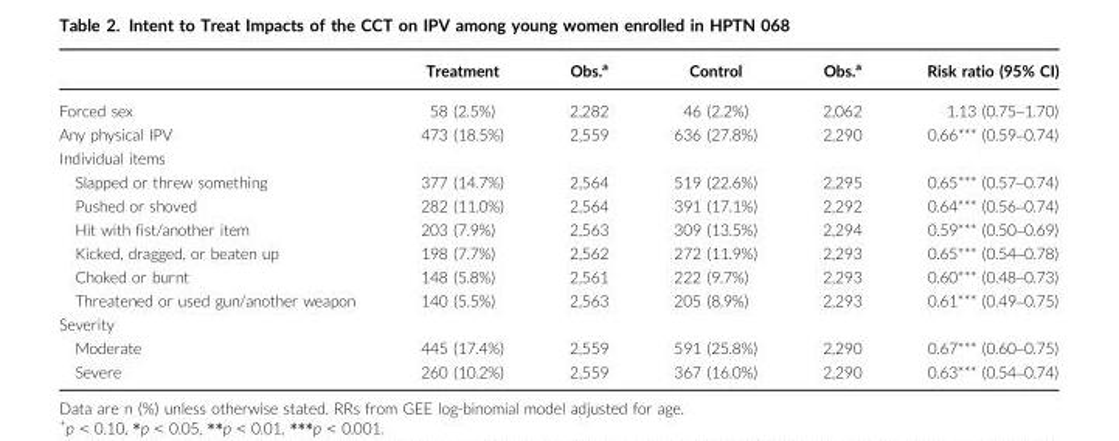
<table><thead><tr><td></td><td>Treatment</td><td>Obs.<sup>a</sup></td><td>Control</td><td>Obs.<sup>a</sup></td><td>Risk ratio (95% CI)</td></tr></thead><tbody><tr><td>Forced sex</td><td>58 (2.5%)</td><td>2,282</td><td>46 (2.2%)</td><td>2,062</td><td>1.13 (0.75–1.70)</td></tr><tr><td>Any physical IPV</td><td>473 (18.5%)</td><td>2,559</td><td>636 (27.8%)</td><td>2,290</td><td>0.66*** (0.59–0.74)</td></tr><tr><td colspan="6">Individual items</td></tr><tr><td>Slapped or threw something</td><td>377 (14.7%)</td><td>2,564</td><td>519 (22.6%)</td><td>2,295</td><td>0.65*** (0.57–0.74)</td></tr><tr><td>Pushed or shoved</td><td>282 (11.0%)</td><td>2,564</td><td>391 (17.1%)</td><td>2,292</td><td>0.64*** (0.56–0.74)</td></tr><tr><td>Hit with fist/another item</td><td>203 (7.9%)</td><td>2,563</td><td>309 (13.5%)</td><td>2,294</td><td>0.59*** (0.50–0.69)</td></tr><tr><td>Kicked, dragged, or beaten up</td><td>198 (7.7%)</td><td>2,562</td><td>272 (11.9%)</td><td>2,293</td><td>0.65*** (0.54–0.78)</td></tr><tr><td>Choked or burnt</td><td>148 (5.8%)</td><td>2,561</td><td>222 (9.7%)</td><td>2,293</td><td>0.60*** (0.48–0.73)</td></tr><tr><td>Threatened or used gun/another weapon</td><td>140 (5.5%)</td><td>2,563</td><td>205 (8.9%)</td><td>2,293</td><td>0.61*** (0.49–0.75)</td></tr><tr><td colspan="6">Severity</td></tr><tr><td>Moderate</td><td>445 (17.4%)</td><td>2,559</td><td>591 (25.8%)</td><td>2,290</td><td>0.67*** (0.60–0.75)</td></tr><tr><td>Severe</td><td>260 (10.2%)</td><td>2,559</td><td>367 (16.0%)</td><td>2,290</td><td>0.63*** (0.54–0.74)</td></tr></tbody></table>